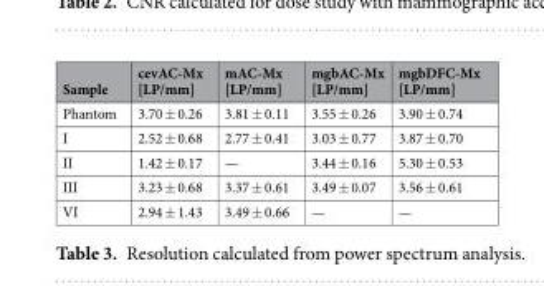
<table><thead><tr><td>Sample</td><td>cevAC-Mx [LP/mm]</td><td>mAC-Mx [LP/mm]</td><td>mgbAC-Mx [LP/mm]</td><td>mgbDFC-Mx [LP/mm]</td></tr></thead><tbody><tr><td>Phantom</td><td>3.70 ± 0.26</td><td>3.81 ± 0.11</td><td>3.55 ± 0.26</td><td>3.90 ± 0.74</td></tr><tr><td>I</td><td>2.52 ± 0.68</td><td>2.77 ± 0.41</td><td>3.03 ± 0.77</td><td>3.87 ± 0.70</td></tr><tr><td>II</td><td>1.42 ± 0.17</td><td>—</td><td>3.44 ± 0.16</td><td>5.30 ± 0.53</td></tr><tr><td>III</td><td>3.23 ± 0.68</td><td>3.37 ± 0.61</td><td>3.49 ± 0.07</td><td>3.56 ± 0.61</td></tr><tr><td>VI</td><td>2.94 ± 1.43</td><td>3.49 ± 0.66</td><td>—</td><td>—</td></tr></tbody></table>